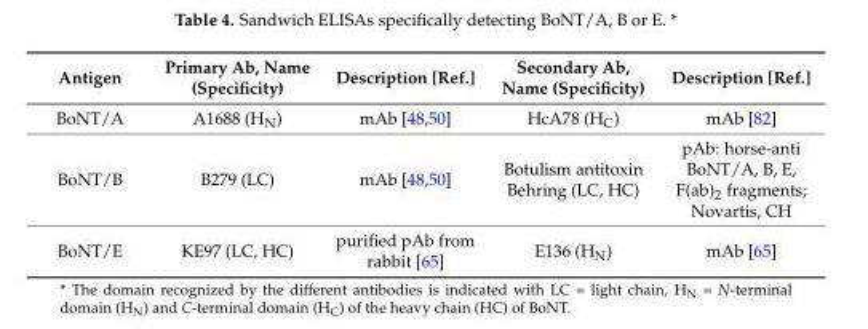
<table><thead><tr><td>Antigen</td><td>Primary Ab, Name (Specificity)</td><td>Description [Ref.]</td><td>Secondary Ab, Name (Specificity)</td><td>Description [Ref.]</td></tr></thead><tbody><tr><td>BoNT/A</td><td>A1688 (H<sub>N</sub>)</td><td>mAb [48,50]</td><td>HcA78 (H<sub>C</sub>)</td><td>mAb [82]</td></tr><tr><td>BoNT/B</td><td>B279 (LC)</td><td>mAb [48,50]</td><td>Botulism antitoxin Behring (LC, HC)</td><td>pAb: horse-anti BoNT/A, B, E, F(ab)<sub>2</sub> fragments; Novartis, CH</td></tr><tr><td>BoNT/E</td><td>KE97 (LC, HC)</td><td>purified pAb from rabbit [65]</td><td>E136 (H<sub>N</sub>)</td><td>mAb [65]</td></tr></tbody></table>